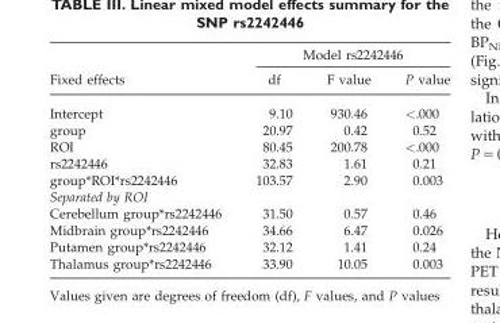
<table><thead><tr><td rowspan="2">Fixed effects</td><td colspan="3">Model rs2242446</td></tr><tr><td>df</td><td>F value</td><td>P value</td></tr></thead><tbody><tr><td>Intercept</td><td>9.10</td><td>930.46</td><td>&lt;.000</td></tr><tr><td>group</td><td>20.97</td><td>0.42</td><td>0.52</td></tr><tr><td>ROI</td><td>80.45</td><td>200.78</td><td>&lt;.000</td></tr><tr><td>rs2242446</td><td>32.83</td><td>1.61</td><td>0.21</td></tr><tr><td>group*ROI*rs2242446</td><td>103.57</td><td>2.90</td><td>0.003</td></tr><tr><td colspan="4">Separated by ROI</td></tr><tr><td>Cerebellum group*rs2242446</td><td>31.50</td><td>0.57</td><td>0.46</td></tr><tr><td>Midbrain group*rs2242446</td><td>34.66</td><td>6.47</td><td>0.026</td></tr><tr><td>Putamen group*rs2242446</td><td>32.12</td><td>1.41</td><td>0.24</td></tr><tr><td>Thalamus group*rs2242446</td><td>33.90</td><td>10.05</td><td>0.003</td></tr></tbody></table>